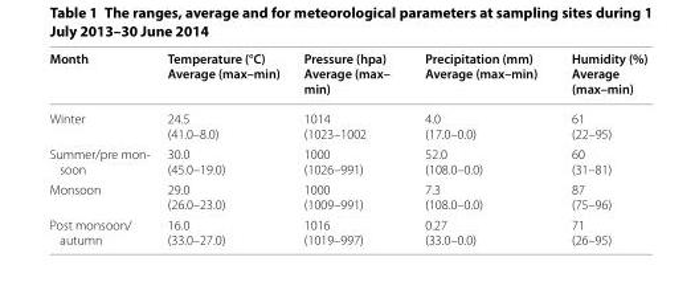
<table><thead><tr><td>Month</td><td>Temperature (°C) Average (max–min)</td><td>Pressure (hpa) Average (max– min)</td><td>Precipitation (mm) Average (max–min)</td><td>Humidity (%) Average (max–min)</td></tr></thead><tbody><tr><td>Winter</td><td>24.5 (41.0–8.0)</td><td>1014 (1023–1002</td><td>4.0 (17.0–0.0)</td><td>61 (22–95)</td></tr><tr><td>Summer/pre mon- soon</td><td>30.0 (45.0–19.0)</td><td>1000 (1026–991)</td><td>52.0 (108.0–0.0)</td><td>60 (31–81)</td></tr><tr><td>Monsoon</td><td>29.0 (26.0–23.0)</td><td>1000 (1009–991)</td><td>7.3 (108.0–0.0)</td><td>87 (75–96)</td></tr><tr><td>Post monsoon/ autumn</td><td>16.0 (33.0–27.0)</td><td>1016 (1019–997)</td><td>0.27 (33.0–0.0)</td><td>71 (26–95)</td></tr></tbody></table>